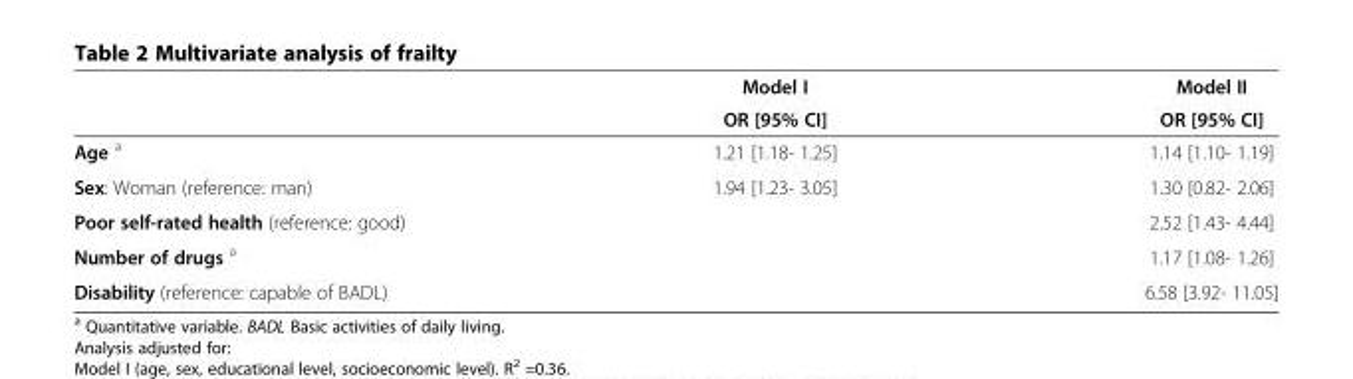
<table><thead><tr><td rowspan="2"></td><td rowspan="2">Model I OR [95% CI]</td><td rowspan="2">Model II OR [95% CI]</td></tr><tr></tr></thead><tbody><tr><td>Age <sup>a</sup></td><td>1.21 [1.18- 1.25]</td><td>1.14 [1.10- 1.19]</td></tr><tr><td>Sex: Woman (reference: man)</td><td>1.94 [1.23- 3.05]</td><td>1.30 [0.82- 2.06]</td></tr><tr><td>Poor self-rated health (reference: good)</td><td></td><td>2.52 [1.43- 4.44]</td></tr><tr><td>Number of drugs <sup>a</sup></td><td></td><td>1.17 [1.08- 1.26]</td></tr><tr><td>Disability (reference: capable of BADL)</td><td></td><td>6.58 [3.92- 11.05]</td></tr></tbody></table>